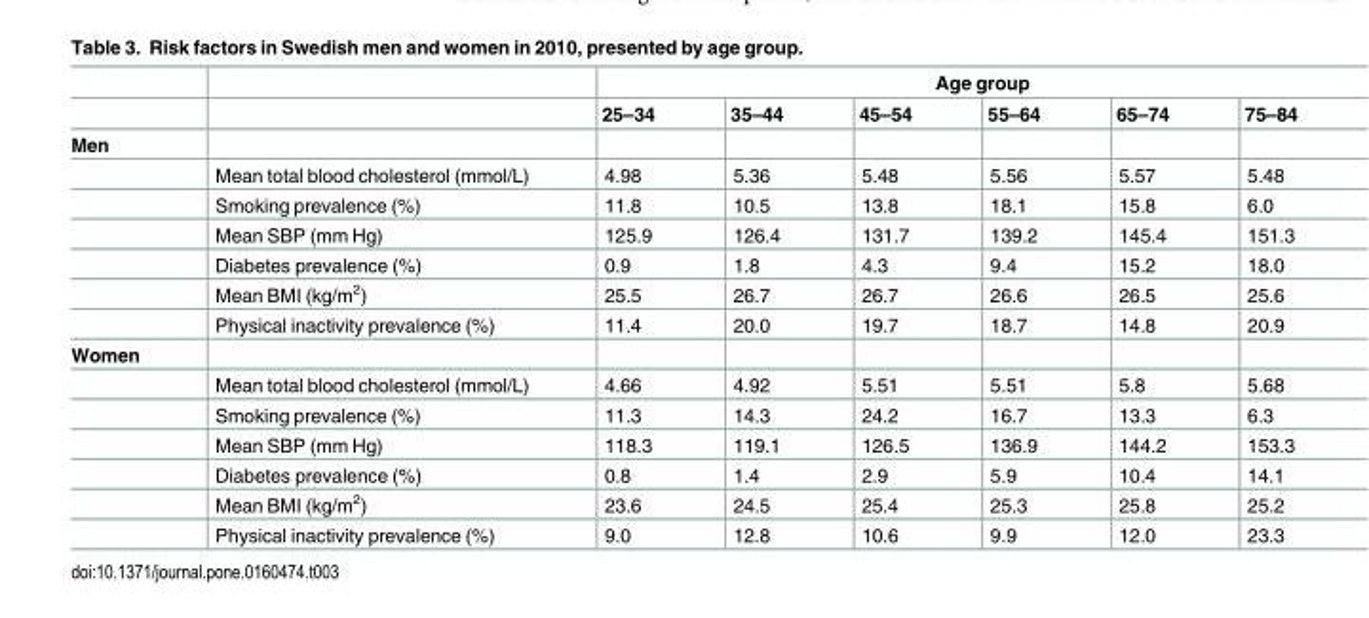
<table><thead><tr><td rowspan="2"></td><td rowspan="2"></td><td colspan="6">Age group</td></tr><tr><td>25–34</td><td>35–44</td><td>45–54</td><td>55–64</td><td>65–74</td><td>75–84</td></tr></thead><tbody><tr><td colspan="8">Men</td></tr><tr><td></td><td>Mean total blood cholesterol (mmol/L)</td><td>4.98</td><td>5.36</td><td>5.48</td><td>5.56</td><td>5.57</td><td>5.48</td></tr><tr><td></td><td>Smoking prevalence (%)</td><td>11.8</td><td>10.5</td><td>13.8</td><td>18.1</td><td>15.8</td><td>6.0</td></tr><tr><td></td><td>Mean SBP (mm Hg)</td><td>125.9</td><td>126.4</td><td>131.7</td><td>139.2</td><td>145.4</td><td>151.3</td></tr><tr><td></td><td>Diabetes prevalence (%)</td><td>0.9</td><td>1.8</td><td>4.3</td><td>9.4</td><td>15.2</td><td>18.0</td></tr><tr><td></td><td>Mean BMI (kg/m<sup>2</sup>)</td><td>25.5</td><td>26.7</td><td>26.7</td><td>26.6</td><td>26.5</td><td>25.6</td></tr><tr><td></td><td>Physical inactivity prevalence (%)</td><td>11.4</td><td>20.0</td><td>19.7</td><td>18.7</td><td>14.8</td><td>20.9</td></tr><tr><td colspan="8">Women</td></tr><tr><td></td><td>Mean total blood cholesterol (mmol/L)</td><td>4.66</td><td>4.92</td><td>5.51</td><td>5.51</td><td>5.8</td><td>5.68</td></tr><tr><td></td><td>Smoking prevalence (%)</td><td>11.3</td><td>14.3</td><td>24.2</td><td>16.7</td><td>13.3</td><td>6.3</td></tr><tr><td></td><td>Mean SBP (mm Hg)</td><td>118.3</td><td>119.1</td><td>126.5</td><td>136.9</td><td>144.2</td><td>153.3</td></tr><tr><td></td><td>Diabetes prevalence (%)</td><td>0.8</td><td>1.4</td><td>2.9</td><td>5.9</td><td>10.4</td><td>14.1</td></tr><tr><td></td><td>Mean BMI (kg/m<sup>2</sup>)</td><td>23.6</td><td>24.5</td><td>25.4</td><td>25.3</td><td>25.8</td><td>25.2</td></tr><tr><td></td><td>Physical inactivity prevalence (%)</td><td>9.0</td><td>12.8</td><td>10.6</td><td>9.9</td><td>12.0</td><td>23.3</td></tr></tbody></table>